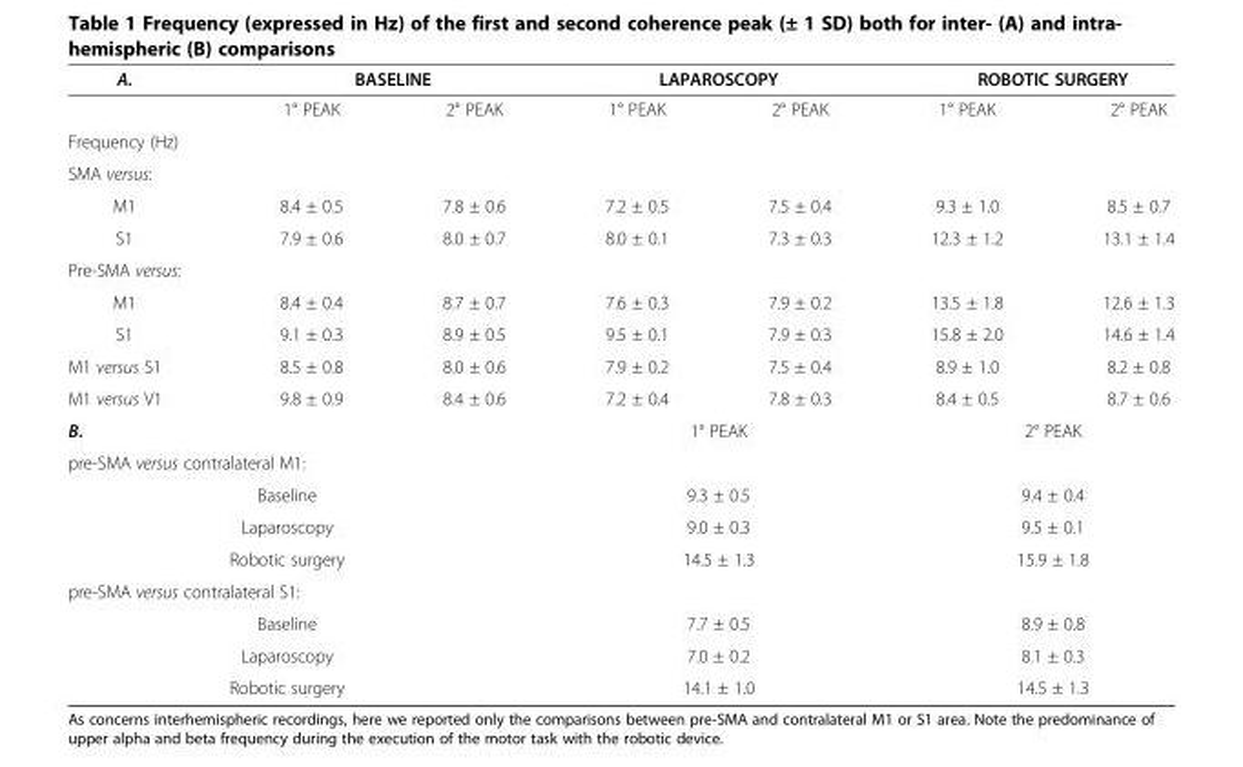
<table><thead><tr><td rowspan="2">A.</td><td colspan="2">BASELINE</td><td colspan="2">LAPAROSCOPY</td><td colspan="2">ROBOTIC SURGERY</td></tr><tr><td>1° PEAK</td><td>2° PEAK</td><td>1° PEAK</td><td>2° PEAK</td><td>1° PEAK</td><td>2° PEAK</td></tr></thead><tbody><tr><td colspan="7">Frequency (Hz)</td></tr><tr><td colspan="7">SMA versus:</td></tr><tr><td>M1</td><td>8.4 ± 0.5</td><td>7.8 ± 0.6</td><td>7.2 ± 0.5</td><td>7.5 ± 0.4</td><td>9.3 ± 1.0</td><td>8.5 ± 0.7</td></tr><tr><td>S1</td><td>7.9 ± 0.6</td><td>8.0 ± 0.7</td><td>8.0 ± 0.1</td><td>7.3 ± 0.3</td><td>12.3 ± 1.2</td><td>13.1 ± 1.4</td></tr><tr><td colspan="7">Pre-SMA versus:</td></tr><tr><td>M1</td><td>8.4 ± 0.4</td><td>8.7 ± 0.7</td><td>7.6 ± 0.3</td><td>7.9 ± 0.2</td><td>13.5 ± 1.8</td><td>12.6 ± 1.3</td></tr><tr><td>S1</td><td>9.1 ± 0.3</td><td>8.9 ± 0.5</td><td>9.5 ± 0.1</td><td>7.9 ± 0.3</td><td>15.8 ± 2.0</td><td>14.6 ± 1.4</td></tr><tr><td>M1 versus S1</td><td>8.5 ± 0.8</td><td>8.0 ± 0.6</td><td>7.9 ± 0.2</td><td>7.5 ± 0.4</td><td>8.9 ± 1.0</td><td>8.2 ± 0.8</td></tr><tr><td>M1 versus V1</td><td>9.8 ± 0.9</td><td>8.4 ± 0.6</td><td>7.2 ± 0.4</td><td>7.8 ± 0.3</td><td>8.4 ± 0.5</td><td>8.7 ± 0.6</td></tr><tr><td colspan="3">B.</td><td colspan="2">1° PEAK</td><td colspan="2">2° PEAK</td></tr><tr><td colspan="7">pre-SMA versus contralateral M1:</td></tr><tr><td colspan="3">Baseline</td><td colspan="2">9.3 ± 0.5</td><td colspan="2">9.4 ± 0.4</td></tr><tr><td colspan="3">Laparoscopy</td><td colspan="2">9.0 ± 0.3</td><td colspan="2">9.5 ± 0.1</td></tr><tr><td colspan="3">Robotic surgery</td><td colspan="2">14.5 ± 1.3</td><td colspan="2">15.9 ± 1.8</td></tr><tr><td colspan="7">pre-SMA versus contralateral S1:</td></tr><tr><td colspan="3">Baseline</td><td colspan="2">7.7 ± 0.5</td><td colspan="2">8.9 ± 0.8</td></tr><tr><td colspan="3">Laparoscopy</td><td colspan="2">7.0 ± 0.2</td><td colspan="2">8.1 ± 0.3</td></tr><tr><td colspan="3">Robotic surgery</td><td colspan="2">14.1 ± 1.0</td><td colspan="2">14.5 ± 1.3</td></tr></tbody></table>